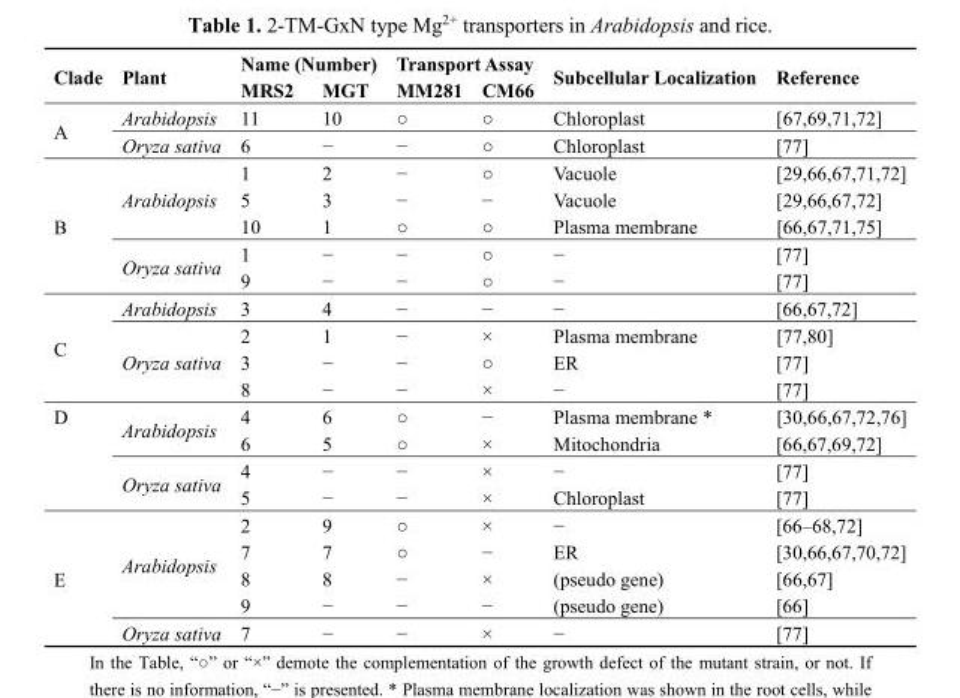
<table><thead><tr><td rowspan="2">Clade</td><td rowspan="2">Plant</td><td colspan="2">Name (Number)</td><td colspan="2">Transport Assay</td><td rowspan="2">Subcellular Localization</td><td rowspan="2">Reference</td></tr><tr><td>MRS2</td><td>MGT</td><td>MM281</td><td>CM66</td></tr></thead><tbody><tr><td rowspan="2">A</td><td>Arabidopsis</td><td>11</td><td>10</td><td>○</td><td>○</td><td>Chloroplast</td><td>[67,69,71,72]</td></tr><tr><td>Oryza sativa</td><td>6</td><td>−</td><td>−</td><td>○</td><td>Chloroplast</td><td>[77]</td></tr><tr><td rowspan="5">B</td><td rowspan="3">Arabidopsis</td><td>1</td><td>2</td><td>−</td><td>○</td><td>Vacuole</td><td>[29,66,67,71,72]</td></tr><tr><td>5</td><td>3</td><td>−</td><td>−</td><td>Vacuole</td><td>[29,66,67,72]</td></tr><tr><td>10</td><td>1</td><td>○</td><td>○</td><td>Plasma membrane</td><td>[66,67,71,75]</td></tr><tr><td rowspan="2">Oryza sativa</td><td>1</td><td>−</td><td>−</td><td>○</td><td>−</td><td>[77]</td></tr><tr><td>9</td><td>−</td><td>−</td><td>○</td><td>−</td><td>[77]</td></tr><tr><td rowspan="4">C</td><td>Arabidopsis</td><td>3</td><td>4</td><td>−</td><td>−</td><td>−</td><td>[66,67,72]</td></tr><tr><td rowspan="3">Oryza sativa</td><td>2</td><td>1</td><td>−</td><td>×</td><td>Plasma membrane</td><td>[77,80]</td></tr><tr><td>3</td><td>−</td><td>−</td><td>○</td><td>ER</td><td>[77]</td></tr><tr><td>8</td><td>−</td><td>−</td><td>×</td><td>−</td><td>[77]</td></tr><tr><td rowspan="4">D</td><td rowspan="2">Arabidopsis</td><td>4</td><td>6</td><td>○</td><td>−</td><td>Plasma membrane *</td><td>[30,66,67,72,76]</td></tr><tr><td>6</td><td>5</td><td>○</td><td>×</td><td>Mitochondria</td><td>[66,67,69,72]</td></tr><tr><td rowspan="2">Oryza sativa</td><td>4</td><td>−</td><td>−</td><td>×</td><td>−</td><td>[77]</td></tr><tr><td>5</td><td>−</td><td>−</td><td>×</td><td>Chloroplast</td><td>[77]</td></tr><tr><td rowspan="5">E</td><td rowspan="4">Arabidopsis</td><td>2</td><td>9</td><td>○</td><td>×</td><td>−</td><td>[66–68,72]</td></tr><tr><td>7</td><td>7</td><td>○</td><td>−</td><td>ER</td><td>[30,66,67,70,72]</td></tr><tr><td>8</td><td>8</td><td>−</td><td>×</td><td>(pseudo gene)</td><td>[66,67]</td></tr><tr><td>9</td><td>−</td><td>−</td><td>−</td><td>(pseudo gene)</td><td>[66]</td></tr><tr><td>Oryza sativa</td><td>7</td><td>−</td><td>−</td><td>×</td><td>−</td><td>[77]</td></tr></tbody></table>